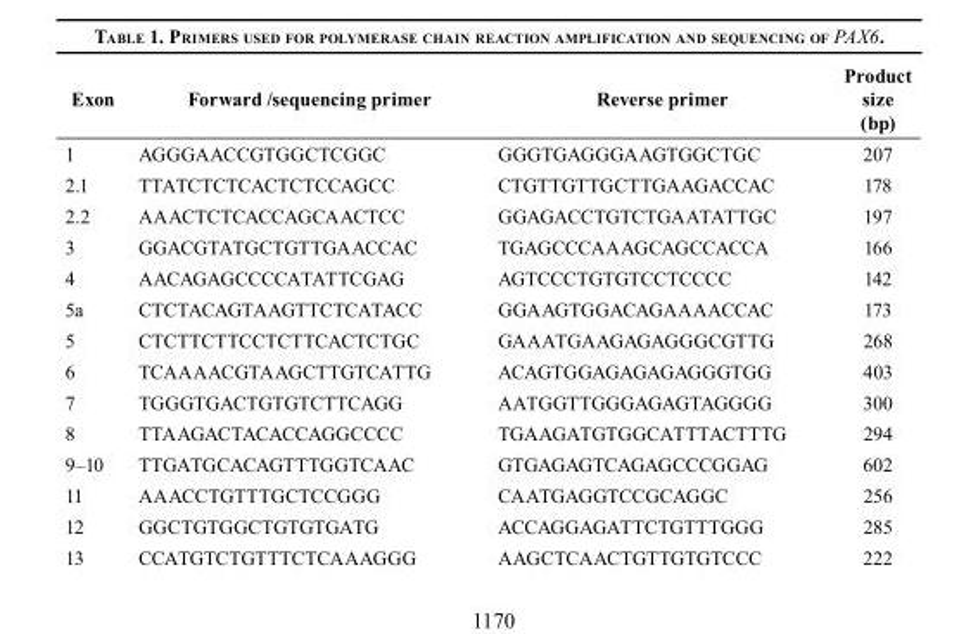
<table><thead><tr><td>Exon</td><td>Forward /sequencing primer</td><td>Reverse primer</td><td>Product size (bp)</td></tr></thead><tbody><tr><td>1</td><td>AGGGAACCGTGGCTCGGC</td><td>GGGTGAGGGAAGTGGCTGC</td><td>207</td></tr><tr><td>2.1</td><td>TTATCTCTCACTCTCCAGCC</td><td>CTGTTGTTGCTTGAAGACCAC</td><td>178</td></tr><tr><td>2.2</td><td>AAACTCTCACCAGCAACTCC</td><td>GGAGACCTGTCTGAATATTGC</td><td>197</td></tr><tr><td>3</td><td>GGACGTATGCTGTTGAACCAC</td><td>TGAGCCCAAAGCAGCCACCA</td><td>166</td></tr><tr><td>4</td><td>AACAGAGCCCCATATTCGAG</td><td>AGTCCCTGTGTCCTCCCC</td><td>142</td></tr><tr><td>5a</td><td>CTCTACAGTAAGTTCTCATACC</td><td>GGAAGTGGACAGAAAACCAC</td><td>173</td></tr><tr><td>5</td><td>CTCTTCTTCCTCTTCACTCTGC</td><td>GAAATGAAGAGAGGGCGTTG</td><td>268</td></tr><tr><td>6</td><td>TCAAAACGTAAGCTTGTCATTG</td><td>ACAGTGGAGAGAGAGGGTGG</td><td>403</td></tr><tr><td>7</td><td>TGGGTGACTGTGTCTTCAGG</td><td>AATGGTTGGGAGAGTAGGGG</td><td>300</td></tr><tr><td>8</td><td>TTAAGACTACACCAGGCCCC</td><td>TGAAGATGTGGCATTTACTTTG</td><td>294</td></tr><tr><td>9–10</td><td>TTGATGCACAGTTTGGTCAAC</td><td>GTGAGAGTCAGAGCCCGGAG</td><td>602</td></tr><tr><td>11</td><td>AAACCTGTTTGCTCCGGG</td><td>CAATGAGGTCCGCAGGC</td><td>256</td></tr><tr><td>12</td><td>GGCTGTGGCTGTGTGATG</td><td>ACCAGGAGATTCTGTTTGGG</td><td>285</td></tr><tr><td>13</td><td>CCATGTCTGTTTCTCAAAGGG</td><td>AAGCTCAACTGTTGTGTCCC</td><td>222</td></tr></tbody></table>